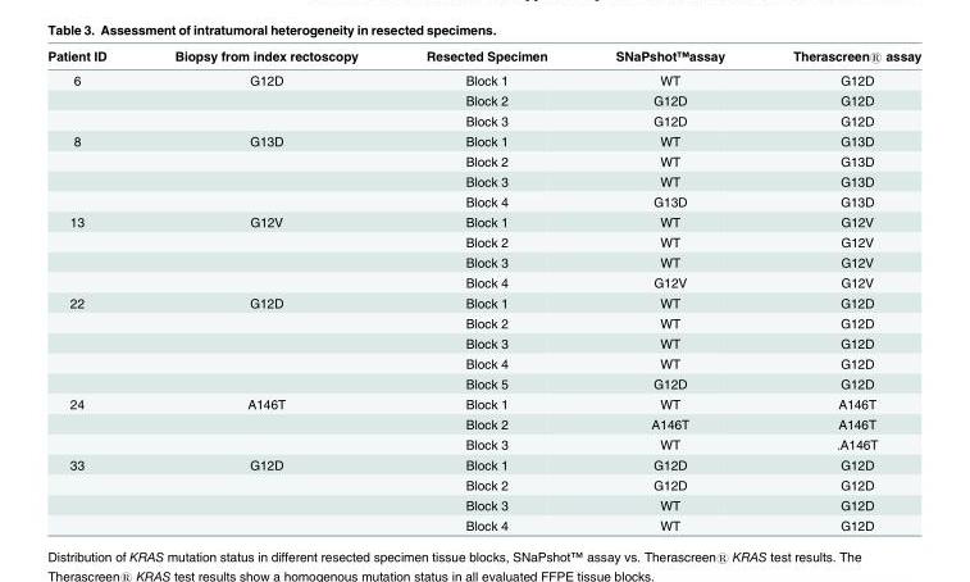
<table><thead><tr><td>Patient ID</td><td>Biopsy from index rectoscopy</td><td>Resected Specimen</td><td>SNaPshot™assay</td><td>Therascreen® assay</td></tr></thead><tbody><tr><td rowspan="3">6</td><td>G12D</td><td>Block 1</td><td>WT</td><td>G12D</td></tr><tr><td></td><td>Block 2</td><td>G12D</td><td>G12D</td></tr><tr><td></td><td>Block 3</td><td>G12D</td><td>G12D</td></tr><tr><td rowspan="4">8</td><td>G13D</td><td>Block 1</td><td>WT</td><td>G13D</td></tr><tr><td></td><td>Block 2</td><td>WT</td><td>G13D</td></tr><tr><td></td><td>Block 3</td><td>WT</td><td>G13D</td></tr><tr><td></td><td>Block 4</td><td>G13D</td><td>G13D</td></tr><tr><td rowspan="4">13</td><td>G12V</td><td>Block 1</td><td>WT</td><td>G12V</td></tr><tr><td></td><td>Block 2</td><td>WT</td><td>G12V</td></tr><tr><td></td><td>Block 3</td><td>WT</td><td>G12V</td></tr><tr><td></td><td>Block 4</td><td>G12V</td><td>G12V</td></tr><tr><td rowspan="5">22</td><td>G12D</td><td>Block 1</td><td>WT</td><td>G12D</td></tr><tr><td></td><td>Block 2</td><td>WT</td><td>G12D</td></tr><tr><td></td><td>Block 3</td><td>WT</td><td>G12D</td></tr><tr><td></td><td>Block 4</td><td>WT</td><td>G12D</td></tr><tr><td></td><td>Block 5</td><td>G12D</td><td>G12D</td></tr><tr><td rowspan="3">24</td><td>A146T</td><td>Block 1</td><td>WT</td><td>A146T</td></tr><tr><td></td><td>Block 2</td><td>A146T</td><td>A146T</td></tr><tr><td></td><td>Block 3</td><td>WT</td><td>.A146T</td></tr><tr><td rowspan="4">33</td><td>G12D</td><td>Block 1</td><td>G12D</td><td>G12D</td></tr><tr><td></td><td>Block 2</td><td>G12D</td><td>G12D</td></tr><tr><td></td><td>Block 3</td><td>WT</td><td>G12D</td></tr><tr><td></td><td>Block 4</td><td>WT</td><td>G12D</td></tr></tbody></table>